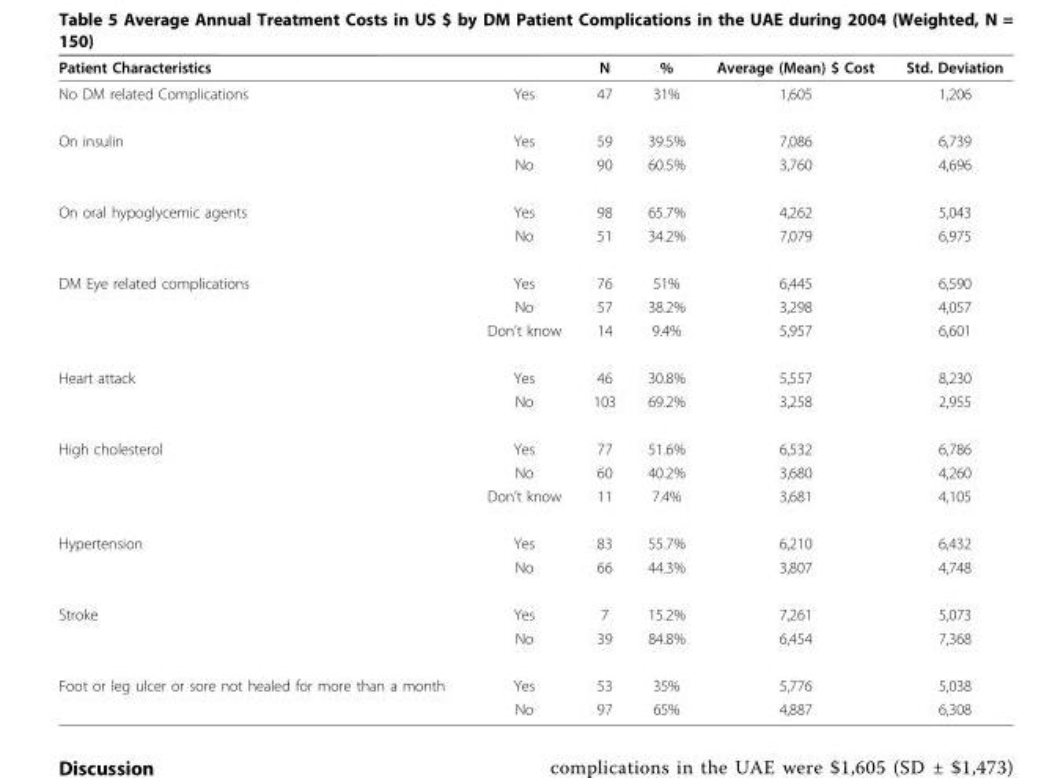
<table><thead><tr><td colspan="2">Patient Characteristics</td><td rowspan="2">N 47</td><td rowspan="2">% 31%</td><td rowspan="2">Average (Mean) $ Cost 1,605</td><td rowspan="2">Std. Deviation 1,206</td></tr><tr><td>No DM related Complications</td><td>Yes</td></tr></thead><tbody><tr><td rowspan="2">On insulin</td><td>Yes</td><td>59</td><td>39.5%</td><td>7,086</td><td>6,739</td></tr><tr><td>No</td><td>90</td><td>60.5%</td><td>3,760</td><td>4,696</td></tr><tr><td rowspan="2">On oral hypoglycemic agents</td><td>Yes</td><td>98</td><td>65.7%</td><td>4,262</td><td>5,043</td></tr><tr><td>No</td><td>51</td><td>34.2%</td><td>7,079</td><td>6,975</td></tr><tr><td rowspan="3">DM Eye related complications</td><td>Yes</td><td>76</td><td>51%</td><td>6,445</td><td>6,590</td></tr><tr><td>No</td><td>57</td><td>38.2%</td><td>3,298</td><td>4,057</td></tr><tr><td>Don’t know</td><td>14</td><td>9.4%</td><td>5,957</td><td>6,601</td></tr><tr><td rowspan="2">Heart attack</td><td>Yes</td><td>46</td><td>30.8%</td><td>5,557</td><td>8,230</td></tr><tr><td>No</td><td>103</td><td>69.2%</td><td>3,258</td><td>2,955</td></tr><tr><td rowspan="3">High cholesterol</td><td>Yes</td><td>77</td><td>51.6%</td><td>6,532</td><td>6,786</td></tr><tr><td>No</td><td>60</td><td>40.2%</td><td>3,680</td><td>4,260</td></tr><tr><td>Don’t know</td><td>11</td><td>7.4%</td><td>3,681</td><td>4,105</td></tr><tr><td rowspan="2">Hypertension</td><td>Yes</td><td>83</td><td>55.7%</td><td>6,210</td><td>6,432</td></tr><tr><td>No</td><td>66</td><td>44.3%</td><td>3,807</td><td>4,748</td></tr><tr><td rowspan="2">Stroke</td><td>Yes</td><td>7</td><td>15.2%</td><td>7,261</td><td>5,073</td></tr><tr><td>No</td><td>39</td><td>84.8%</td><td>6,454</td><td>7,368</td></tr><tr><td rowspan="2">Foot or leg ulcer or sore not healed for more than a month</td><td>Yes</td><td>53</td><td>35%</td><td>5,776</td><td>5,038</td></tr><tr><td>No</td><td>97</td><td>65%</td><td>4,887</td><td>6,308</td></tr></tbody></table>